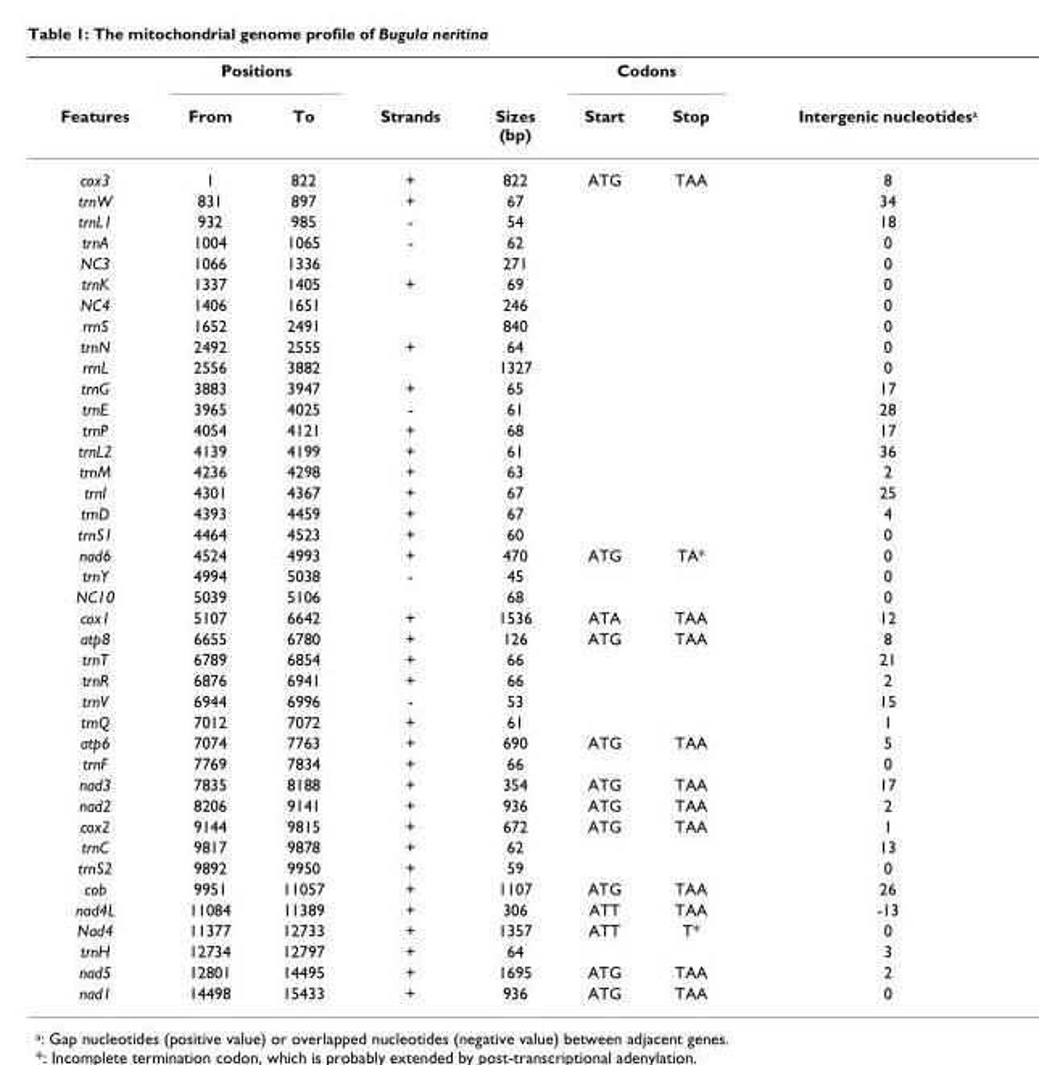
<table><thead><tr><td rowspan="2">Features</td><td colspan="2">Positions</td><td rowspan="2">Strands</td><td rowspan="2">Sizes (bp)</td><td colspan="2">Codons</td><td rowspan="2">Intergenic nucleotides<sup>a</sup></td></tr><tr><td>From</td><td>To</td><td>Start</td><td>Stop</td></tr></thead><tbody><tr><td>cox3</td><td>1</td><td>822</td><td>+</td><td>822</td><td>ATG</td><td>TAA</td><td>8</td></tr><tr><td>trnW</td><td>831</td><td>897</td><td>+</td><td>67</td><td></td><td></td><td>34</td></tr><tr><td>trnL1</td><td>932</td><td>985</td><td>-</td><td>54</td><td></td><td></td><td>18</td></tr><tr><td>trnA</td><td>1004</td><td>1065</td><td>-</td><td>62</td><td></td><td></td><td>0</td></tr><tr><td>NC3</td><td>1066</td><td>1336</td><td></td><td>271</td><td></td><td></td><td>0</td></tr><tr><td>trnK</td><td>1337</td><td>1405</td><td>+</td><td>69</td><td></td><td></td><td>0</td></tr><tr><td>NC4</td><td>1406</td><td>1651</td><td></td><td>246</td><td></td><td></td><td>0</td></tr><tr><td>rrnS</td><td>1652</td><td>2491</td><td></td><td>840</td><td></td><td></td><td>0</td></tr><tr><td>trnN</td><td>2492</td><td>2555</td><td>+</td><td>64</td><td></td><td></td><td>0</td></tr><tr><td>rrnL</td><td>2556</td><td>3882</td><td></td><td>1327</td><td></td><td></td><td>0</td></tr><tr><td>trnG</td><td>3883</td><td>3947</td><td>+</td><td>65</td><td></td><td></td><td>17</td></tr><tr><td>trnE</td><td>3965</td><td>4025</td><td>-</td><td>61</td><td></td><td></td><td>28</td></tr><tr><td>trnP</td><td>4054</td><td>4121</td><td>+</td><td>68</td><td></td><td></td><td>17</td></tr><tr><td>trnL2</td><td>4139</td><td>4199</td><td>+</td><td>61</td><td></td><td></td><td>36</td></tr><tr><td>trnM</td><td>4236</td><td>4298</td><td>+</td><td>63</td><td></td><td></td><td>2</td></tr><tr><td>trnI</td><td>4301</td><td>4367</td><td>+</td><td>67</td><td></td><td></td><td>25</td></tr><tr><td>trnD</td><td>4393</td><td>4459</td><td>+</td><td>67</td><td></td><td></td><td>4</td></tr><tr><td>trnS1</td><td>4464</td><td>4523</td><td>+</td><td>60</td><td></td><td></td><td>0</td></tr><tr><td>nad6</td><td>4524</td><td>4993</td><td>+</td><td>470</td><td>ATG</td><td>TA*</td><td>0</td></tr><tr><td>trnY</td><td>4994</td><td>5038</td><td>-</td><td>45</td><td></td><td></td><td>0</td></tr><tr><td>NC10</td><td>5039</td><td>5106</td><td></td><td>68</td><td></td><td></td><td>0</td></tr><tr><td>cox1</td><td>5107</td><td>6642</td><td>+</td><td>1536</td><td>ATA</td><td>TAA</td><td>12</td></tr><tr><td>atp8</td><td>6655</td><td>6780</td><td>+</td><td>126</td><td>ATG</td><td>TAA</td><td>8</td></tr><tr><td>trnT</td><td>6789</td><td>6854</td><td>+</td><td>66</td><td></td><td></td><td>21</td></tr><tr><td>trnR</td><td>6876</td><td>6941</td><td>+</td><td>66</td><td></td><td></td><td>2</td></tr><tr><td>trnV</td><td>6944</td><td>6996</td><td>-</td><td>53</td><td></td><td></td><td>15</td></tr><tr><td>trnQ</td><td>7012</td><td>7072</td><td>+</td><td>61</td><td></td><td></td><td>1</td></tr><tr><td>atp6</td><td>7074</td><td>7763</td><td>+</td><td>690</td><td>ATG</td><td>TAA</td><td>5</td></tr><tr><td>trnF</td><td>7769</td><td>7834</td><td>+</td><td>66</td><td></td><td></td><td>0</td></tr><tr><td>nad3</td><td>7835</td><td>8188</td><td>+</td><td>354</td><td>ATG</td><td>TAA</td><td>17</td></tr><tr><td>nad2</td><td>8206</td><td>9141</td><td>+</td><td>936</td><td>ATG</td><td>TAA</td><td>2</td></tr><tr><td>cox2</td><td>9144</td><td>9815</td><td>+</td><td>672</td><td>ATG</td><td>TAA</td><td>1</td></tr><tr><td>trnC</td><td>9817</td><td>9878</td><td>+</td><td>62</td><td></td><td></td><td>13</td></tr><tr><td>trnS2</td><td>9892</td><td>9950</td><td>+</td><td>59</td><td></td><td></td><td>0</td></tr><tr><td>cob</td><td>9951</td><td>11057</td><td>+</td><td>1107</td><td>ATG</td><td>TAA</td><td>26</td></tr><tr><td>nad4L</td><td>11084</td><td>11389</td><td>+</td><td>306</td><td>ATT</td><td>TAA</td><td>-13</td></tr><tr><td>Nad4</td><td>11377</td><td>12733</td><td>+</td><td>1357</td><td>ATT</td><td>T*</td><td>0</td></tr><tr><td>trnH</td><td>12734</td><td>12797</td><td>+</td><td>64</td><td></td><td></td><td>3</td></tr><tr><td>nad5</td><td>12801</td><td>14495</td><td>+</td><td>1695</td><td>ATG</td><td>TAA</td><td>2</td></tr><tr><td>nad1</td><td>14498</td><td>15433</td><td>+</td><td>936</td><td>ATG</td><td>TAA</td><td>0</td></tr></tbody></table>